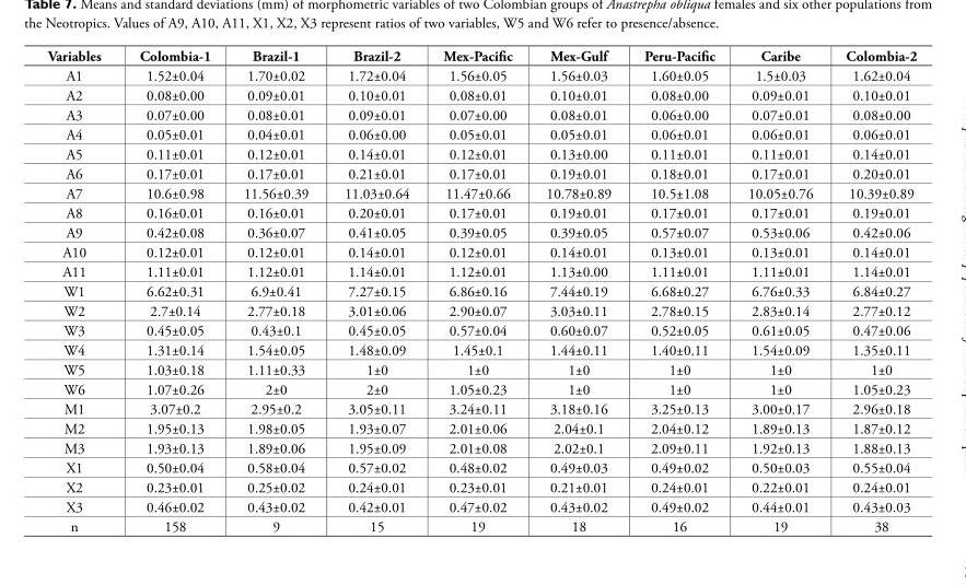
<table><thead><tr><td>Variables</td><td>Colombia-1</td><td>Brazil-1</td><td>Brazil-2</td><td>Mex-Pacific</td><td>Mex-Gulf</td><td>Peru-Pacific</td><td>Caribe</td><td>Colombia-2</td></tr></thead><tbody><tr><td>A1</td><td>1.52±0.04</td><td>1.70±0.02</td><td>1.72±0.04</td><td>1.56±0.05</td><td>1.56±0.03</td><td>1.60±0.05</td><td>1.5±0.03</td><td>1.62±0.04</td></tr><tr><td>A2</td><td>0.08±0.00</td><td>0.09±0.01</td><td>0.10±0.01</td><td>0.08±0.01</td><td>0.10±0.01</td><td>0.08±0.00</td><td>0.09±0.01</td><td>0.10±0.01</td></tr><tr><td>A3</td><td>0.07±0.00</td><td>0.08±0.01</td><td>0.09±0.01</td><td>0.07±0.00</td><td>0.08±0.01</td><td>0.06±0.00</td><td>0.07±0.01</td><td>0.08±0.00</td></tr><tr><td>A4</td><td>0.05±0.01</td><td>0.04±0.01</td><td>0.06±0.00</td><td>0.05±0.01</td><td>0.05±0.01</td><td>0.06±0.01</td><td>0.06±0.01</td><td>0.06±0.01</td></tr><tr><td>A5</td><td>0.11±0.01</td><td>0.12±0.01</td><td>0.14±0.01</td><td>0.12±0.01</td><td>0.13±0.00</td><td>0.11±0.01</td><td>0.11±0.01</td><td>0.14±0.01</td></tr><tr><td>A6</td><td>0.17±0.01</td><td>0.17±0.01</td><td>0.21±0.01</td><td>0.17±0.01</td><td>0.19±0.01</td><td>0.18±0.01</td><td>0.17±0.01</td><td>0.20±0.01</td></tr><tr><td>A7</td><td>10.6±0.98</td><td>11.56±0.39</td><td>11.03±0.64</td><td>11.47±0.66</td><td>10.78±0.89</td><td>10.5±1.08</td><td>10.05±0.76</td><td>10.39±0.89</td></tr><tr><td>A8</td><td>0.16±0.01</td><td>0.16±0.01</td><td>0.20±0.01</td><td>0.17±0.01</td><td>0.19±0.01</td><td>0.17±0.01</td><td>0.17±0.01</td><td>0.19±0.01</td></tr><tr><td>A9</td><td>0.42±0.08</td><td>0.36±0.07</td><td>0.41±0.05</td><td>0.39±0.05</td><td>0.39±0.05</td><td>0.57±0.07</td><td>0.53±0.06</td><td>0.42±0.06</td></tr><tr><td>A10</td><td>0.12±0.01</td><td>0.12±0.01</td><td>0.14±0.01</td><td>0.12±0.01</td><td>0.14±0.01</td><td>0.13±0.01</td><td>0.13±0.01</td><td>0.14±0.01</td></tr><tr><td>A11</td><td>1.11±0.01</td><td>1.12±0.01</td><td>1.14±0.01</td><td>1.12±0.01</td><td>1.13±0.00</td><td>1.11±0.01</td><td>1.11±0.01</td><td>1.14±0.01</td></tr><tr><td>W1</td><td>6.62±0.31</td><td>6.9±0.41</td><td>7.27±0.15</td><td>6.86±0.16</td><td>7.44±0.19</td><td>6.68±0.27</td><td>6.76±0.33</td><td>6.84±0.27</td></tr><tr><td>W2</td><td>2.7±0.14</td><td>2.77±0.18</td><td>3.01±0.06</td><td>2.90±0.07</td><td>3.03±0.11</td><td>2.78±0.15</td><td>2.83±0.14</td><td>2.77±0.12</td></tr><tr><td>W3</td><td>0.45±0.05</td><td>0.43±0.1</td><td>0.45±0.05</td><td>0.57±0.04</td><td>0.60±0.07</td><td>0.52±0.05</td><td>0.61±0.05</td><td>0.47±0.06</td></tr><tr><td>W4</td><td>1.31±0.14</td><td>1.54±0.05</td><td>1.48±0.09</td><td>1.45±0.1</td><td>1.44±0.11</td><td>1.40±0.11</td><td>1.54±0.09</td><td>1.35±0.11</td></tr><tr><td>W5</td><td>1.03±0.18</td><td>1.11±0.33</td><td>1±0</td><td>1±0</td><td>1±0</td><td>1±0</td><td>1±0</td><td>1±0</td></tr><tr><td>W6</td><td>1.07±0.26</td><td>2±0</td><td>2±0</td><td>1.05±0.23</td><td>1±0</td><td>1±0</td><td>1±0</td><td>1.05±0.23</td></tr><tr><td>M1</td><td>3.07±0.2</td><td>2.95±0.2</td><td>3.05±0.11</td><td>3.24±0.11</td><td>3.18±0.16</td><td>3.25±0.13</td><td>3.00±0.17</td><td>2.96±0.18</td></tr><tr><td>M2</td><td>1.95±0.13</td><td>1.98±0.05</td><td>1.93±0.07</td><td>2.01±0.06</td><td>2.04±0.1</td><td>2.04±0.12</td><td>1.89±0.13</td><td>1.87±0.12</td></tr><tr><td>M3</td><td>1.93±0.13</td><td>1.89±0.06</td><td>1.95±0.09</td><td>2.01±0.08</td><td>2.02±0.1</td><td>2.09±0.11</td><td>1.92±0.13</td><td>1.88±0.13</td></tr><tr><td>X1</td><td>0.50±0.04</td><td>0.58±0.04</td><td>0.57±0.02</td><td>0.48±0.02</td><td>0.49±0.03</td><td>0.49±0.02</td><td>0.50±0.03</td><td>0.55±0.04</td></tr><tr><td>X2</td><td>0.23±0.01</td><td>0.25±0.02</td><td>0.24±0.01</td><td>0.23±0.01</td><td>0.21±0.01</td><td>0.24±0.01</td><td>0.22±0.01</td><td>0.24±0.01</td></tr><tr><td>X3</td><td>0.46±0.02</td><td>0.43±0.02</td><td>0.42±0.01</td><td>0.47±0.02</td><td>0.43±0.02</td><td>0.49±0.02</td><td>0.44±0.01</td><td>0.43±0.03</td></tr><tr><td>n</td><td>158</td><td>9</td><td>15</td><td>19</td><td>18</td><td>16</td><td>19</td><td>38</td></tr></tbody></table>